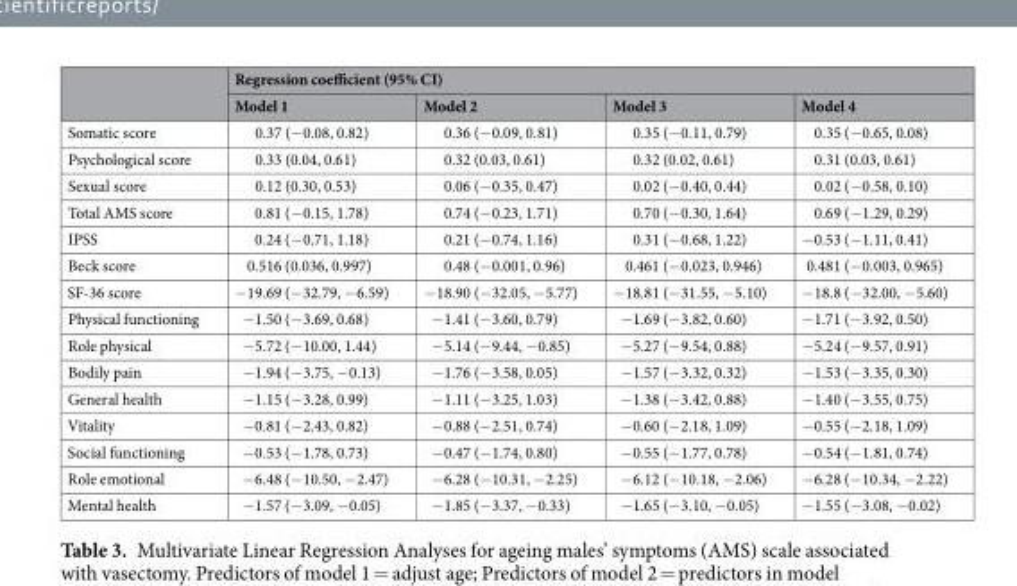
<table><thead><tr><td rowspan="2"></td><td colspan="4">Regression coefficient (95% CI)</td></tr><tr><td>Model 1</td><td>Model 2</td><td>Model 3</td><td>Model 4</td></tr></thead><tbody><tr><td>Somatic score</td><td>0.37 (−0.08, 0.82)</td><td>0.36 (−0.09, 0.81)</td><td>0.35 (−0.11, 0.79)</td><td>0.35 (−0.65, 0.08)</td></tr><tr><td>Psychological score</td><td>0.33 (0.04, 0.61)</td><td>0.32 (0.03, 0.61)</td><td>0.32 (0.02, 0.61)</td><td>0.31 (0.03, 0.61)</td></tr><tr><td>Sexual score</td><td>0.12 (0.30, 0.53)</td><td>0.06 (−0.35, 0.47)</td><td>0.02 (−0.40, 0.44)</td><td>0.02 (−0.58, 0.10)</td></tr><tr><td>Total AMS score</td><td>0.81 (−0.15, 1.78)</td><td>0.74 (−0.23, 1.71)</td><td>0.70 (−0.30, 1.64)</td><td>0.69 (−1.29, 0.29)</td></tr><tr><td>IPSS</td><td>0.24 (−0.71, 1.18)</td><td>0.21 (−0.74, 1.16)</td><td>0.31 (−0.68, 1.22)</td><td>−0.53 (−1.11, 0.41)</td></tr><tr><td>Beck score</td><td>0.516 (0.036, 0.997)</td><td>0.48 (−0.001, 0.96)</td><td>0.461 (−0.023, 0.946)</td><td>0.481 (−0.003, 0.965)</td></tr><tr><td>SF-36 score</td><td>−19.69 (−32.79, −6.59)</td><td>−18.90 (−32.05, −5.77)</td><td>−18.81 (−31.55, −5.10)</td><td>−18.8 (−32.00, −5.60)</td></tr><tr><td>Physical functioning</td><td>−1.50 (−3.69, 0.68)</td><td>−1.41 (−3.60, 0.79)</td><td>−1.69 (−3.82, 0.60)</td><td>−1.71 (−3.92, 0.50)</td></tr><tr><td>Role physical</td><td>−5.72 (−10.00, 1.44)</td><td>−5.14 (−9.44, −0.85)</td><td>−5.27 (−9.54, 0.88)</td><td>−5.24 (−9.57, 0.91)</td></tr><tr><td>Bodily pain</td><td>−1.94 (−3.75, −0.13)</td><td>−1.76 (−3.58, 0.05)</td><td>−1.57 (−3.32, 0.32)</td><td>−1.53 (−3.35, 0.30)</td></tr><tr><td>General health</td><td>−1.15 (−3.28, 0.99)</td><td>−1.11 (−3.25, 1.03)</td><td>−1.38 (−3.42, 0.88)</td><td>−1.40 (−3.55, 0.75)</td></tr><tr><td>Vitality</td><td>−0.81 (−2.43, 0.82)</td><td>−0.88 (−2.51, 0.74)</td><td>−0.60 (−2.18, 1.09)</td><td>−0.55 (−2.18, 1.09)</td></tr><tr><td>Social functioning</td><td>−0.53 (−1.78, 0.73)</td><td>−0.47 (−1.74, 0.80)</td><td>−0.55 (−1.77, 0.78)</td><td>−0.54 (−1.81, 0.74)</td></tr><tr><td>Role emotional</td><td>−6.48 (−10.50, −2.47)</td><td>−6.28 (−10.31, −2.25)</td><td>−6.12 (−10.18, −2.06)</td><td>−6.28 (−10.34, −2.22)</td></tr><tr><td>Mental health</td><td>−1.57 (−3.09, −0.05)</td><td>−1.85 (−3.37, −0.33)</td><td>−1.65 (−3.10, −0.05)</td><td>−1.55 (−3.08, −0.02)</td></tr></tbody></table>